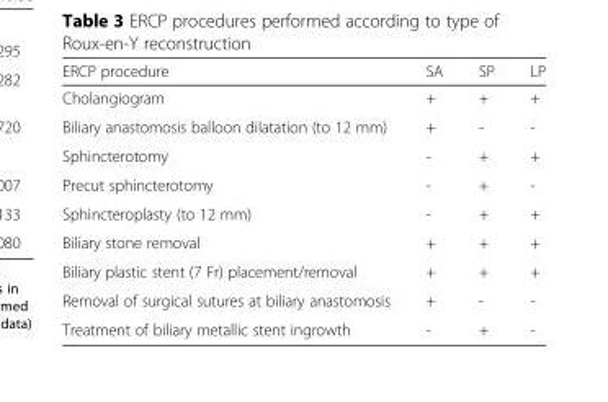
<table><thead><tr><td>ERCP procedure</td><td>SA</td><td>SP</td><td>LP</td></tr></thead><tbody><tr><td>Cholangiogram</td><td>+</td><td>+</td><td>+</td></tr><tr><td>Biliary anastomosis balloon dilatation (to 12 mm)</td><td>+</td><td>-</td><td>-</td></tr><tr><td>Sphincterotomy</td><td>-</td><td>+</td><td>+</td></tr><tr><td>Precut sphincterotomy</td><td>-</td><td>+</td><td>-</td></tr><tr><td>Sphincteroplasty (to 12 mm)</td><td>-</td><td>+</td><td>+</td></tr><tr><td>Biliary stone removal</td><td>+</td><td>+</td><td>+</td></tr><tr><td>Biliary plastic stent (7 Fr) placement/removal</td><td>+</td><td>+</td><td>+</td></tr><tr><td>Removal of surgical sutures at biliary anastomosis</td><td>+</td><td>-</td><td>-</td></tr><tr><td>Treatment of biliary metallic stent ingrowth</td><td>-</td><td>+</td><td>-</td></tr></tbody></table>